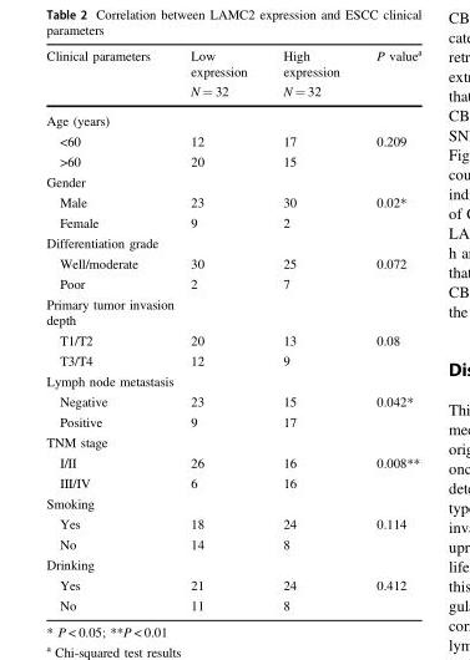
<table><thead><tr><td rowspan="2">Clinical parameters</td><td rowspan="2">Low expression N = 32</td><td rowspan="2">High expression N = 32</td><td rowspan="2">P value<sup>a</sup></td></tr><tr></tr></thead><tbody><tr><td colspan="4">Age (years)</td></tr><tr><td>&lt;60</td><td>12</td><td>17</td><td rowspan="2">0.209</td></tr><tr><td>&gt;60</td><td>20</td><td>15</td></tr><tr><td colspan="4">Gender</td></tr><tr><td>Male</td><td>23</td><td>30</td><td rowspan="2">0.02*</td></tr><tr><td>Female</td><td>9</td><td>2</td></tr><tr><td colspan="4">Differentiation grade</td></tr><tr><td>Well/moderate</td><td>30</td><td>25</td><td rowspan="2">0.072</td></tr><tr><td>Poor</td><td>2</td><td>7</td></tr><tr><td colspan="4">Primary tumor invasion depth</td></tr><tr><td>T1/T2</td><td>20</td><td>13</td><td rowspan="2">0.08</td></tr><tr><td>T3/T4</td><td>12</td><td>9</td></tr><tr><td colspan="4">Lymph node metastasis</td></tr><tr><td>Negative</td><td>23</td><td>15</td><td rowspan="2">0.042*</td></tr><tr><td>Positive</td><td>9</td><td>17</td></tr><tr><td colspan="4">TNM stage</td></tr><tr><td>I/II</td><td>26</td><td>16</td><td rowspan="2">0.008**</td></tr><tr><td>III/IV</td><td>6</td><td>16</td></tr><tr><td colspan="4">Smoking</td></tr><tr><td>Yes</td><td>18</td><td>24</td><td rowspan="2">0.114</td></tr><tr><td>No</td><td>14</td><td>8</td></tr><tr><td colspan="4">Drinking</td></tr><tr><td>Yes</td><td>21</td><td>24</td><td rowspan="2">0.412</td></tr><tr><td>No</td><td>11</td><td>8</td></tr></tbody></table>